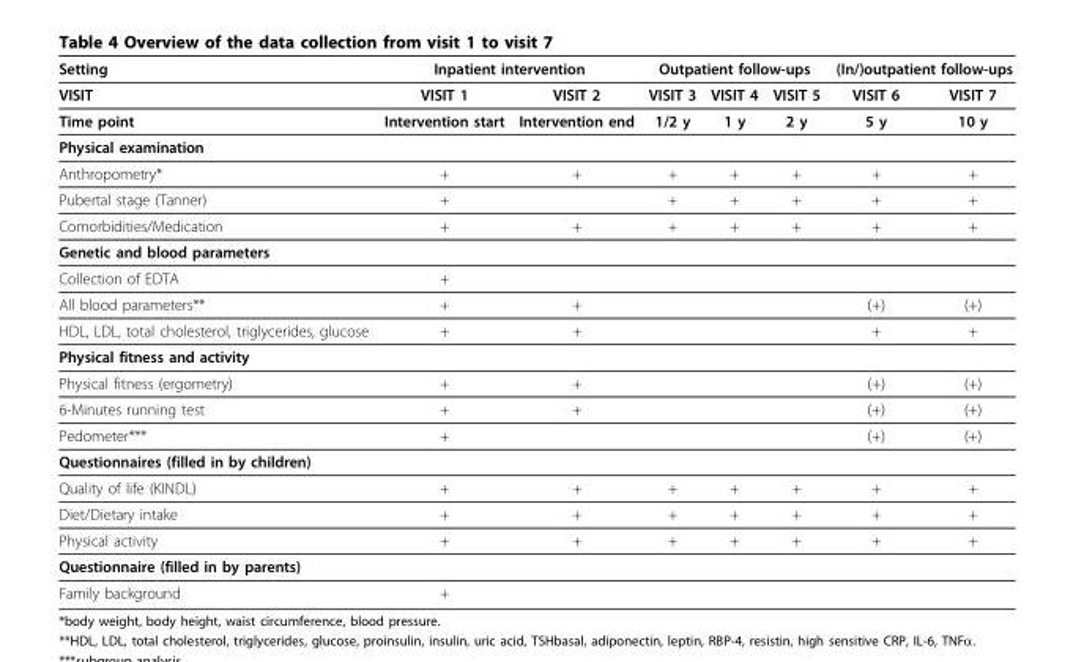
<table><thead><tr><td rowspan="2">Setting VISIT</td><td colspan="2">Inpatient intervention</td><td colspan="3">Outpatient follow-ups</td><td colspan="2">(In/)outpatient follow-ups</td></tr><tr><td>VISIT 1</td><td>VISIT 2</td><td>VISIT 3</td><td>VISIT 4</td><td>VISIT 5</td><td>VISIT 6</td><td>VISIT 7</td></tr></thead><tbody><tr><td>Time point</td><td>Intervention start</td><td>Intervention end</td><td>1/2 y</td><td>1 y</td><td>2 y</td><td>5 y</td><td>10 y</td></tr><tr><td colspan="8">Physical examination</td></tr><tr><td>Anthropometry*</td><td>+</td><td>+</td><td>+</td><td>+</td><td>+</td><td>+</td><td>+</td></tr><tr><td>Pubertal stage (Tanner)</td><td>+</td><td></td><td>+</td><td>+</td><td>+</td><td>+</td><td>+</td></tr><tr><td>Comorbidities/Medication</td><td>+</td><td>+</td><td>+</td><td>+</td><td>+</td><td>+</td><td>+</td></tr><tr><td colspan="8">Genetic and blood parameters</td></tr><tr><td>Collection of EDTA</td><td>+</td><td></td><td></td><td></td><td></td><td></td><td></td></tr><tr><td>All blood parameters**</td><td>+</td><td>+</td><td></td><td></td><td></td><td>(+)</td><td>(+)</td></tr><tr><td>HDL, LDL, total cholesterol, triglycerides, glucose</td><td>+</td><td>+</td><td></td><td></td><td></td><td>+</td><td>+</td></tr><tr><td colspan="8">Physical fitness and activity</td></tr><tr><td>Physical fitness (ergometry)</td><td>+</td><td>+</td><td></td><td></td><td></td><td>(+)</td><td>(+)</td></tr><tr><td>6-Minutes running test</td><td>+</td><td>+</td><td></td><td></td><td></td><td>(+)</td><td>(+)</td></tr><tr><td>Pedometer***</td><td>+</td><td></td><td></td><td></td><td></td><td>(+)</td><td>(+)</td></tr><tr><td colspan="8">Questionnaires (filled in by children)</td></tr><tr><td>Quality of life (KINDL)</td><td>+</td><td>+</td><td>+</td><td>+</td><td>+</td><td>+</td><td>+</td></tr><tr><td>Diet/Dietary intake</td><td>+</td><td>+</td><td>+</td><td>+</td><td>+</td><td>+</td><td>+</td></tr><tr><td>Physical activity</td><td>+</td><td>+</td><td>+</td><td>+</td><td>+</td><td>+</td><td>+</td></tr><tr><td colspan="8">Questionnaire (filled in by parents)</td></tr><tr><td>Family background</td><td>+</td><td></td><td></td><td></td><td></td><td></td><td></td></tr></tbody></table>